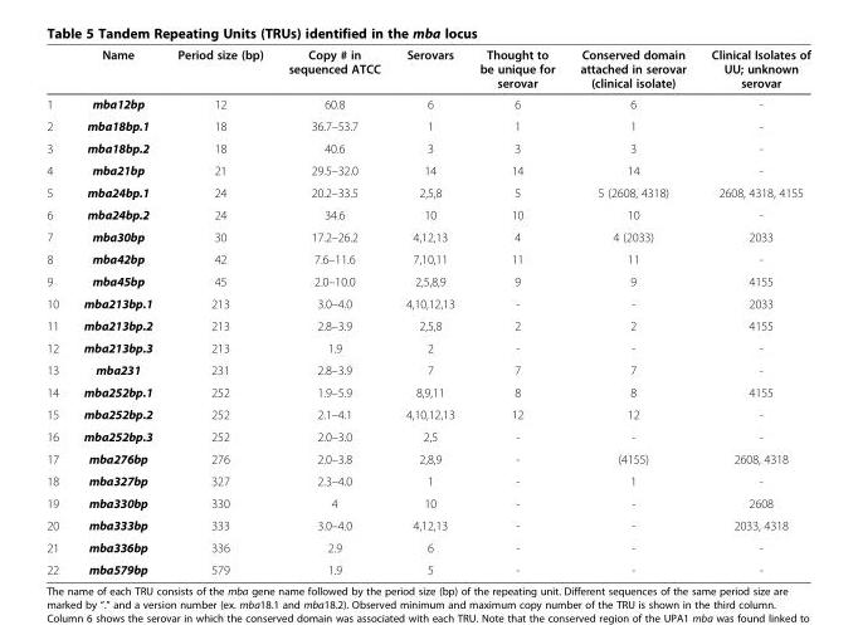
<table><thead><tr><td></td><td>Name</td><td>Period size (bp)</td><td>Copy # in sequenced ATCC</td><td>Serovars</td><td>Thought to be unique for serovar</td><td>Conserved domain attached in serovar (clinical isolate)</td><td>Clinical Isolates of UU; unknown serovar</td></tr></thead><tbody><tr><td>1</td><td>mba12bp</td><td>12</td><td>60.8</td><td>6</td><td>6</td><td>6</td><td>-</td></tr><tr><td>2</td><td>mba18bp.1</td><td>18</td><td>36.7–53.7</td><td>1</td><td>1</td><td>1</td><td>-</td></tr><tr><td>3</td><td>mba18bp.2</td><td>18</td><td>40.6</td><td>3</td><td>3</td><td>3</td><td>-</td></tr><tr><td>4</td><td>mba21bp</td><td>21</td><td>29.5–32.0</td><td>14</td><td>14</td><td>14</td><td>-</td></tr><tr><td>5</td><td>mba24bp.1</td><td>24</td><td>20.2–33.5</td><td>2,5,8</td><td>5</td><td>5 (2608, 4318)</td><td>2608, 4318, 4155</td></tr><tr><td>6</td><td>mba24bp.2</td><td>24</td><td>34.6</td><td>10</td><td>10</td><td>10</td><td>-</td></tr><tr><td>7</td><td>mba30bp</td><td>30</td><td>17.2–26.2</td><td>4,12,13</td><td>4</td><td>4 (2033)</td><td>2033</td></tr><tr><td>8</td><td>mba42bp</td><td>42</td><td>7.6–11.6</td><td>7,10,11</td><td>11</td><td>11</td><td>-</td></tr><tr><td>9</td><td>mba45bp</td><td>45</td><td>2.0–10.0</td><td>2,5,8,9</td><td>9</td><td>9</td><td>4155</td></tr><tr><td>10</td><td>mba213bp.1</td><td>213</td><td>3.0–4.0</td><td>4,10,12,13</td><td>-</td><td>-</td><td>2033</td></tr><tr><td>11</td><td>mba213bp.2</td><td>213</td><td>2.8–3.9</td><td>2,5,8</td><td>2</td><td>2</td><td>4155</td></tr><tr><td>12</td><td>mba213bp.3</td><td>213</td><td>1.9</td><td>2</td><td>-</td><td>-</td><td>-</td></tr><tr><td>13</td><td>mba231</td><td>231</td><td>2.8–3.9</td><td>7</td><td>7</td><td>7</td><td>-</td></tr><tr><td>14</td><td>mba252bp.1</td><td>252</td><td>1.9–5.9</td><td>8,9,11</td><td>8</td><td>8</td><td>4155</td></tr><tr><td>15</td><td>mba252bp.2</td><td>252</td><td>2.1–4.1</td><td>4,10,12,13</td><td>12</td><td>12</td><td>-</td></tr><tr><td>16</td><td>mba252bp.3</td><td>252</td><td>2.0–3.0</td><td>2,5</td><td>-</td><td>-</td><td>-</td></tr><tr><td>17</td><td>mba276bp</td><td>276</td><td>2.0–3.8</td><td>2,8,9</td><td>-</td><td>(4155)</td><td>2608, 4318</td></tr><tr><td>18</td><td>mba327bp</td><td>327</td><td>2.3–4.0</td><td>1</td><td>-</td><td>1</td><td>-</td></tr><tr><td>19</td><td>mba330bp</td><td>330</td><td>4</td><td>10</td><td>-</td><td>-</td><td>2608</td></tr><tr><td>20</td><td>mba333bp</td><td>333</td><td>3.0–4.0</td><td>4,12,13</td><td>-</td><td>-</td><td>2033, 4318</td></tr><tr><td>21</td><td>mba336bp</td><td>336</td><td>2.9</td><td>6</td><td>-</td><td>-</td><td>-</td></tr><tr><td>22</td><td>mba579bp</td><td>579</td><td>1.9</td><td>5</td><td>-</td><td>-</td><td>-</td></tr></tbody></table>